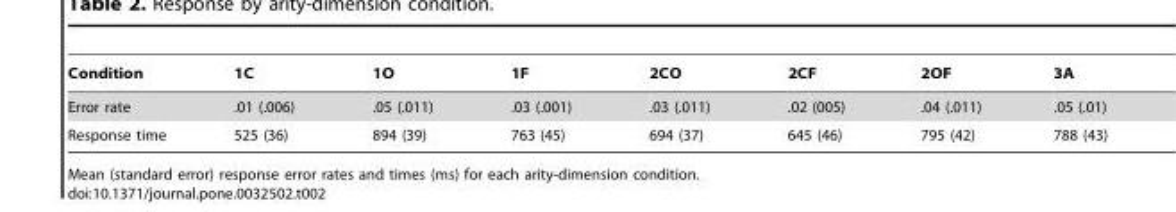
<table><thead><tr><td>Condition</td><td>1C</td><td>1O</td><td>1F</td><td>2CO</td><td>2CF</td><td>2OF</td><td>3A</td></tr></thead><tbody><tr><td>Error rate</td><td>.01 (.006)</td><td>.05 (.011)</td><td>.03 (.001)</td><td>.03 (.011)</td><td>.02 (005)</td><td>.04 (.011)</td><td>.05 (.01)</td></tr><tr><td>Response time</td><td>525 (36)</td><td>894 (39)</td><td>763 (45)</td><td>694 (37)</td><td>645 (46)</td><td>795 (42)</td><td>788 (43)</td></tr></tbody></table>